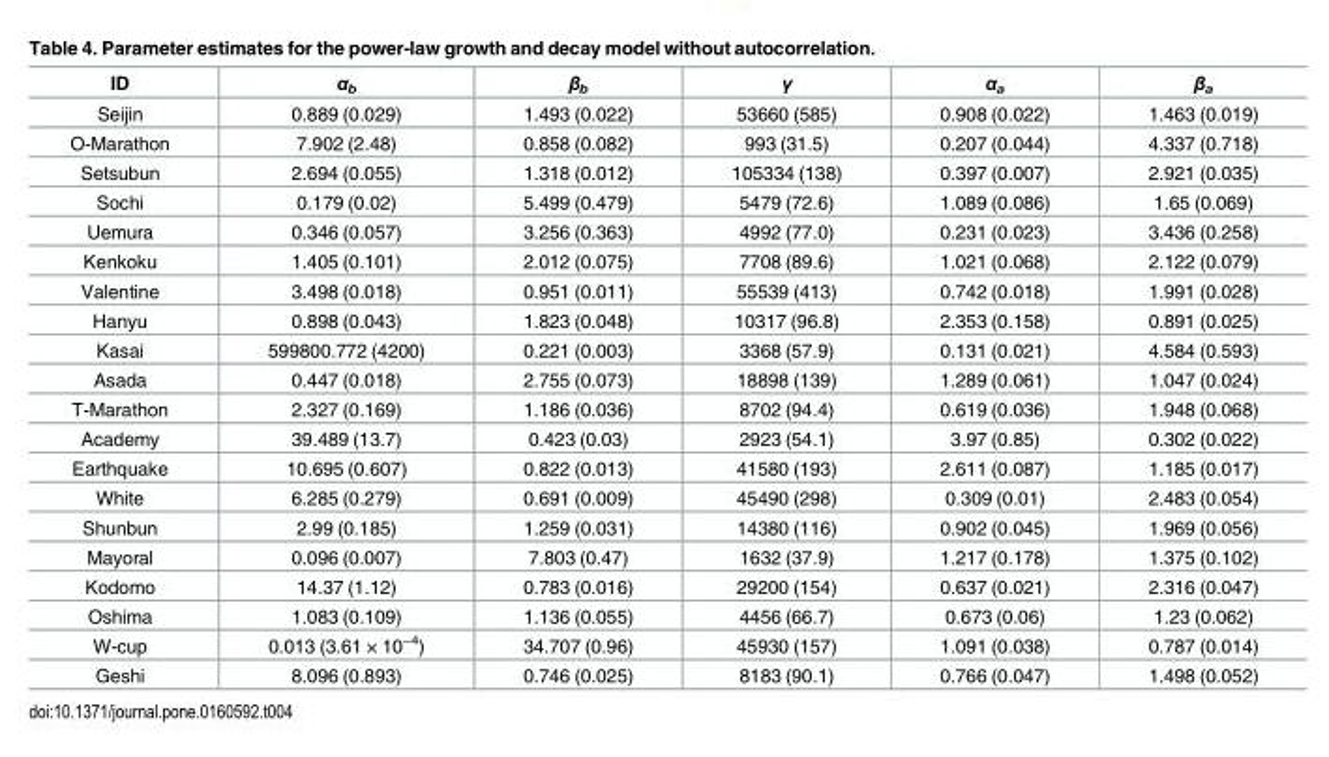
<table><thead><tr><td>ID</td><td>α<sub>b</sub></td><td>β<sub>b</sub></td><td>γ</td><td>α<sub>a</sub></td><td>β<sub>a</sub></td></tr></thead><tbody><tr><td>Seijin</td><td>0.889 (0.029)</td><td>1.493 (0.022)</td><td>53660 (585)</td><td>0.908 (0.022)</td><td>1.463 (0.019)</td></tr><tr><td>O-Marathon</td><td>7.902 (2.48)</td><td>0.858 (0.082)</td><td>993 (31.5)</td><td>0.207 (0.044)</td><td>4.337 (0.718)</td></tr><tr><td>Setsubun</td><td>2.694 (0.055)</td><td>1.318 (0.012)</td><td>105334 (138)</td><td>0.397 (0.007)</td><td>2.921 (0.035)</td></tr><tr><td>Sochi</td><td>0.179 (0.02)</td><td>5.499 (0.479)</td><td>5479 (72.6)</td><td>1.089 (0.086)</td><td>1.65 (0.069)</td></tr><tr><td>Uemura</td><td>0.346 (0.057)</td><td>3.256 (0.363)</td><td>4992 (77.0)</td><td>0.231 (0.023)</td><td>3.436 (0.258)</td></tr><tr><td>Kenkoku</td><td>1.405 (0.101)</td><td>2.012 (0.075)</td><td>7708 (89.6)</td><td>1.021 (0.068)</td><td>2.122 (0.079)</td></tr><tr><td>Valentine</td><td>3.498 (0.018)</td><td>0.951 (0.011)</td><td>55539 (413)</td><td>0.742 (0.018)</td><td>1.991 (0.028)</td></tr><tr><td>Hanyu</td><td>0.898 (0.043)</td><td>1.823 (0.048)</td><td>10317 (96.8)</td><td>2.353 (0.158)</td><td>0.891 (0.025)</td></tr><tr><td>Kasai</td><td>599800.772 (4200)</td><td>0.221 (0.003)</td><td>3368 (57.9)</td><td>0.131 (0.021)</td><td>4.584 (0.593)</td></tr><tr><td>Asada</td><td>0.447 (0.018)</td><td>2.755 (0.073)</td><td>18898 (139)</td><td>1.289 (0.061)</td><td>1.047 (0.024)</td></tr><tr><td>T-Marathon</td><td>2.327 (0.169)</td><td>1.186 (0.036)</td><td>8702 (94.4)</td><td>0.619 (0.036)</td><td>1.948 (0.068)</td></tr><tr><td>Academy</td><td>39.489 (13.7)</td><td>0.423 (0.03)</td><td>2923 (54.1)</td><td>3.97 (0.85)</td><td>0.302 (0.022)</td></tr><tr><td>Earthquake</td><td>10.695 (0.607)</td><td>0.822 (0.013)</td><td>41580 (193)</td><td>2.611 (0.087)</td><td>1.185 (0.017)</td></tr><tr><td>White</td><td>6.285 (0.279)</td><td>0.691 (0.009)</td><td>45490 (298)</td><td>0.309 (0.01)</td><td>2.483 (0.054)</td></tr><tr><td>Shunbun</td><td>2.99 (0.185)</td><td>1.259 (0.031)</td><td>14380 (116)</td><td>0.902 (0.045)</td><td>1.969 (0.056)</td></tr><tr><td>Mayoral</td><td>0.096 (0.007)</td><td>7.803 (0.47)</td><td>1632 (37.9)</td><td>1.217 (0.178)</td><td>1.375 (0.102)</td></tr><tr><td>Kodomo</td><td>14.37 (1.12)</td><td>0.783 (0.016)</td><td>29200 (154)</td><td>0.637 (0.021)</td><td>2.316 (0.047)</td></tr><tr><td>Oshima</td><td>1.083 (0.109)</td><td>1.136 (0.055)</td><td>4456 (66.7)</td><td>0.673 (0.06)</td><td>1.23 (0.062)</td></tr><tr><td>W-cup</td><td>0.013 (3.61 × 10<sup>−4</sup>)</td><td>34.707 (0.96)</td><td>45930 (157)</td><td>1.091 (0.038)</td><td>0.787 (0.014)</td></tr><tr><td>Geshi</td><td>8.096 (0.893)</td><td>0.746 (0.025)</td><td>8183 (90.1)</td><td>0.766 (0.047)</td><td>1.498 (0.052)</td></tr></tbody></table>